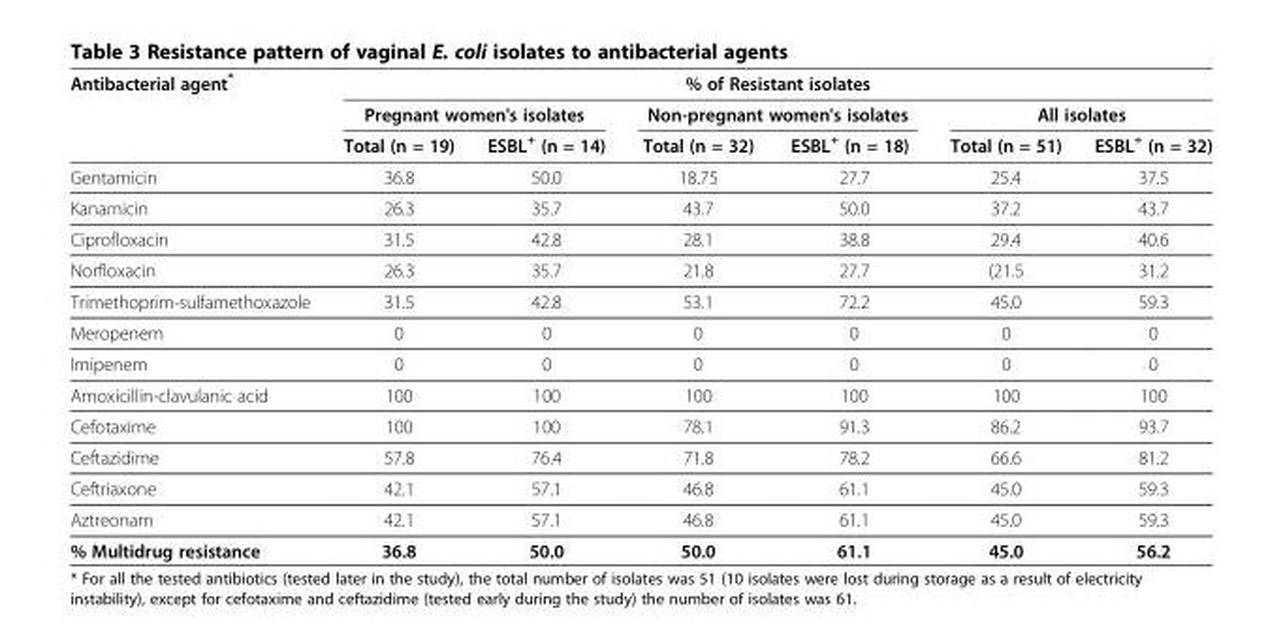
<table><thead><tr><td rowspan="3">Antibacterial agent*</td><td colspan="6">% of Resistant isolates</td></tr><tr><td colspan="2">Pregnant women&#x27;s isolates</td><td colspan="2">Non-pregnant women&#x27;s isolates</td><td colspan="2">All isolates</td></tr><tr><td>Total (n = 19)</td><td>ESBL<sup>+</sup> (n = 14)</td><td>Total (n = 32)</td><td>ESBL<sup>+</sup> (n = 18)</td><td>Total (n = 51)</td><td>ESBL<sup>+</sup> (n = 32)</td></tr></thead><tbody><tr><td>Gentamicin</td><td>36.8</td><td>50.0</td><td>18.75</td><td>27.7</td><td>25.4</td><td>37.5</td></tr><tr><td>Kanamicin</td><td>26.3</td><td>35.7</td><td>43.7</td><td>50.0</td><td>37.2</td><td>43.7</td></tr><tr><td>Ciprofloxacin</td><td>31.5</td><td>42.8</td><td>28.1</td><td>38.8</td><td>29.4</td><td>40.6</td></tr><tr><td>Norfloxacin</td><td>26.3</td><td>35.7</td><td>21.8</td><td>27.7</td><td>(21.5</td><td>31.2</td></tr><tr><td>Trimethoprim-sulfamethoxazole</td><td>31.5</td><td>42.8</td><td>53.1</td><td>72.2</td><td>45.0</td><td>59.3</td></tr><tr><td>Meropenem</td><td>0</td><td>0</td><td>0</td><td>0</td><td>0</td><td>0</td></tr><tr><td>Imipenem</td><td>0</td><td>0</td><td>0</td><td>0</td><td>0</td><td>0</td></tr><tr><td>Amoxicillin-clavulanic acid</td><td>100</td><td>100</td><td>100</td><td>100</td><td>100</td><td>100</td></tr><tr><td>Cefotaxime</td><td>100</td><td>100</td><td>78.1</td><td>91.3</td><td>86.2</td><td>93.7</td></tr><tr><td>Ceftazidime</td><td>57.8</td><td>76.4</td><td>71.8</td><td>78.2</td><td>66.6</td><td>81.2</td></tr><tr><td>Ceftriaxone</td><td>42.1</td><td>57.1</td><td>46.8</td><td>61.1</td><td>45.0</td><td>59.3</td></tr><tr><td>Aztreonam</td><td>42.1</td><td>57.1</td><td>46.8</td><td>61.1</td><td>45.0</td><td>59.3</td></tr><tr><td>% Multidrug resistance</td><td>36.8</td><td>50.0</td><td>50.0</td><td>61.1</td><td>45.0</td><td>56.2</td></tr></tbody></table>